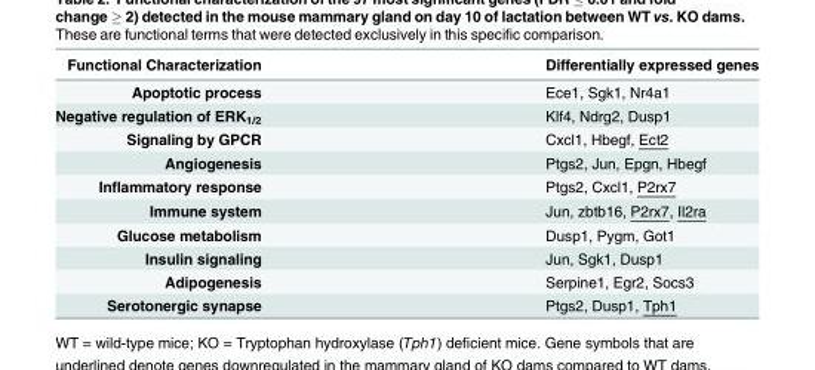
<table><thead><tr><td>Functional Characterization</td><td>Differentially expressed genes</td></tr></thead><tbody><tr><td>Apoptotic process</td><td>Ece1, Sgk1, Nr4a1</td></tr><tr><td>Negative regulation of ERK<sub>1/2</sub></td><td>Klf4, Ndrg2, Dusp1</td></tr><tr><td>Signaling by GPCR</td><td>Cxcl1, Hbegf, Ect2</td></tr><tr><td>Angiogenesis</td><td>Ptgs2, Jun, Epgn, Hbegf</td></tr><tr><td>Inflammatory response</td><td>Ptgs2, Cxcl1, P2rx7</td></tr><tr><td>Immune system</td><td>Jun, zbtb16, P2rx7, Il2ra</td></tr><tr><td>Glucose metabolism</td><td>Dusp1, Pygm, Got1</td></tr><tr><td>Insulin signaling</td><td>Jun, Sgk1, Dusp1</td></tr><tr><td>Adipogenesis</td><td>Serpine1, Egr2, Socs3</td></tr><tr><td>Serotonergic synapse</td><td>Ptgs2, Dusp1, Tph1</td></tr></tbody></table>